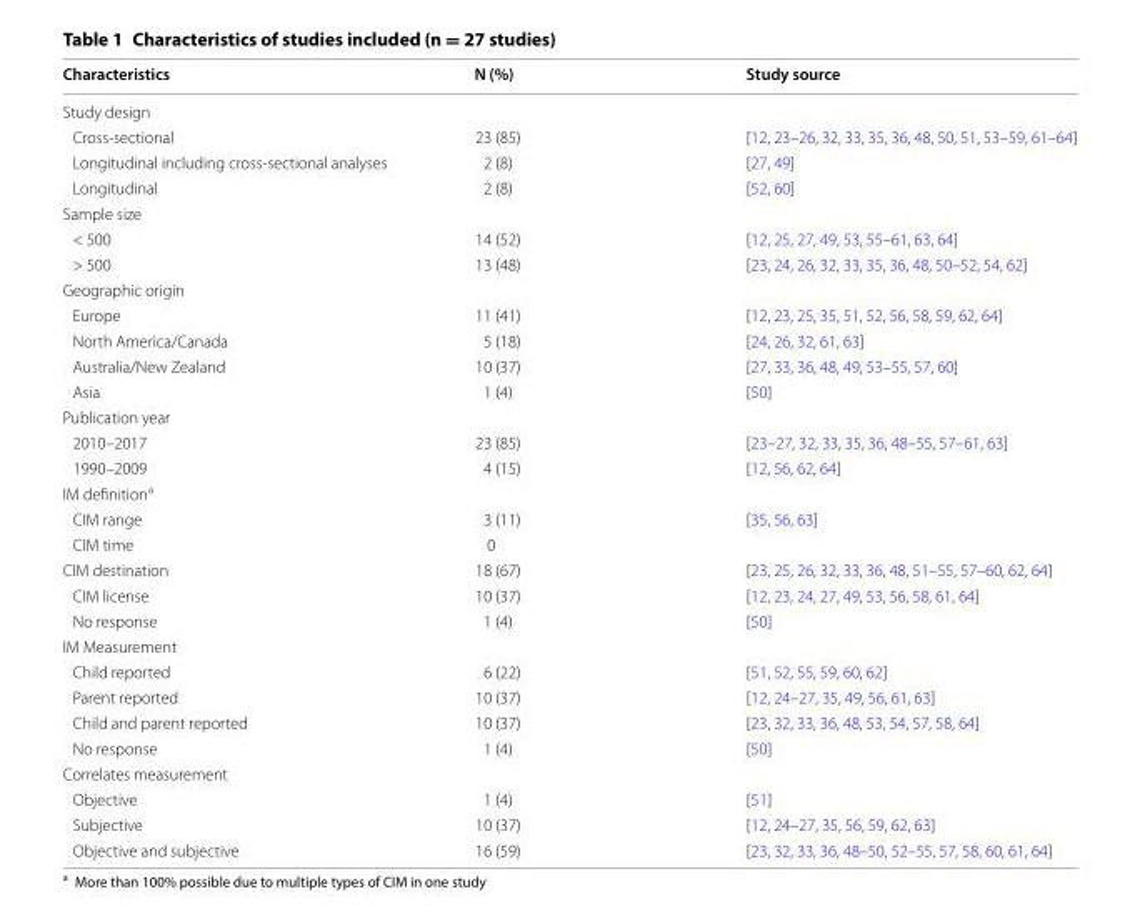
<table><thead><tr><td>Characteristics</td><td>N (%)</td><td>Study source</td></tr></thead><tbody><tr><td colspan="3">Study design</td></tr><tr><td>Cross-sectional</td><td>23 (85)</td><td>[12, 23–26, 32, 33, 35, 36, 48, 50, 51, 53–59, 61–64]</td></tr><tr><td>Longitudinal including cross-sectional analyses</td><td>2 (8)</td><td>[27, 49]</td></tr><tr><td>Longitudinal</td><td>2 (8)</td><td>[52, 60]</td></tr><tr><td colspan="3">Sample size</td></tr><tr><td>&lt; 500</td><td>14 (52)</td><td>[12, 25, 27, 49, 53, 55–61, 63, 64]</td></tr><tr><td>&gt; 500</td><td>13 (48)</td><td>[23, 24, 26, 32, 33, 35, 36, 48, 50–52, 54, 62]</td></tr><tr><td colspan="3">Geographic origin</td></tr><tr><td>Europe</td><td>11 (41)</td><td>[12, 23, 25, 35, 51, 52, 56, 58, 59, 62, 64]</td></tr><tr><td>North America/Canada</td><td>5 (18)</td><td>[24, 26, 32, 61, 63]</td></tr><tr><td>Australia/New Zealand</td><td>10 (37)</td><td>[27, 33, 36, 48, 49, 53–55, 57, 60]</td></tr><tr><td>Asia</td><td>1 (4)</td><td>[50]</td></tr><tr><td colspan="3">Publication year</td></tr><tr><td>2010–2017</td><td>23 (85)</td><td>[23–27, 32, 33, 35, 36, 48–55, 57–61, 63]</td></tr><tr><td>1990–2009</td><td>4 (15)</td><td>[12, 56, 62, 64]</td></tr><tr><td colspan="3">IM definition<sup>a</sup></td></tr><tr><td>CIM range</td><td>3 (11)</td><td>[35, 56, 63]</td></tr><tr><td>CIM time</td><td>0</td><td></td></tr><tr><td>CIM destination</td><td>18 (67)</td><td>[23, 25, 26, 32, 33, 36, 48, 51–55, 57–60, 62, 64]</td></tr><tr><td>CIM license</td><td>10 (37)</td><td>[12, 23, 24, 27, 49, 53, 56, 58, 61, 64]</td></tr><tr><td>No response</td><td>1 (4)</td><td>[50]</td></tr><tr><td colspan="3">IM Measurement</td></tr><tr><td>Child reported</td><td>6 (22)</td><td>[51, 52, 55, 59, 60, 62]</td></tr><tr><td>Parent reported</td><td>10 (37)</td><td>[12, 24–27, 35, 49, 56, 61, 63]</td></tr><tr><td>Child and parent reported</td><td>10 (37)</td><td>[23, 32, 33, 36, 48, 53, 54, 57, 58, 64]</td></tr><tr><td>No response</td><td>1 (4)</td><td>[50]</td></tr><tr><td colspan="3">Correlates measurement</td></tr><tr><td>Objective</td><td>1 (4)</td><td>[51]</td></tr><tr><td>Subjective</td><td>10 (37)</td><td>[12, 24–27, 35, 56, 59, 62, 63]</td></tr><tr><td>Objective and subjective</td><td>16 (59)</td><td>[23, 32, 33, 36, 48–50, 52–55, 57, 58, 60, 61, 64]</td></tr></tbody></table>